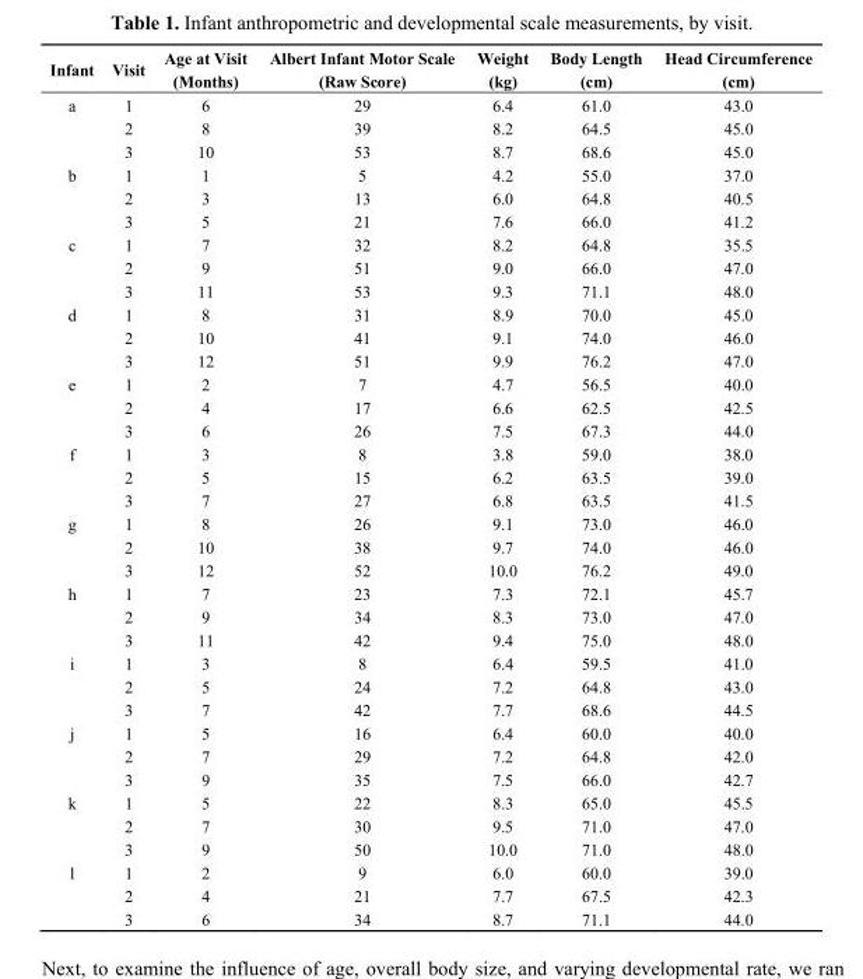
<table><thead><tr><td>Infant</td><td>Visit</td><td>Age at Visit (Months)</td><td>Albert Infant Motor Scale (Raw Score)</td><td>Weight (kg)</td><td>Body Length (cm)</td><td>Head Circumference (cm)</td></tr></thead><tbody><tr><td rowspan="3">a</td><td>1</td><td>6</td><td>29</td><td>6.4</td><td>61.0</td><td>43.0</td></tr><tr><td>2</td><td>8</td><td>39</td><td>8.2</td><td>64.5</td><td>45.0</td></tr><tr><td>3</td><td>10</td><td>53</td><td>8.7</td><td>68.6</td><td>45.0</td></tr><tr><td rowspan="3">b</td><td>1</td><td>1</td><td>5</td><td>4.2</td><td>55.0</td><td>37.0</td></tr><tr><td>2</td><td>3</td><td>13</td><td>6.0</td><td>64.8</td><td>40.5</td></tr><tr><td>3</td><td>5</td><td>21</td><td>7.6</td><td>66.0</td><td>41.2</td></tr><tr><td rowspan="3">c</td><td>1</td><td>7</td><td>32</td><td>8.2</td><td>64.8</td><td>35.5</td></tr><tr><td>2</td><td>9</td><td>51</td><td>9.0</td><td>66.0</td><td>47.0</td></tr><tr><td>3</td><td>11</td><td>53</td><td>9.3</td><td>71.1</td><td>48.0</td></tr><tr><td rowspan="3">d</td><td>1</td><td>8</td><td>31</td><td>8.9</td><td>70.0</td><td>45.0</td></tr><tr><td>2</td><td>10</td><td>41</td><td>9.1</td><td>74.0</td><td>46.0</td></tr><tr><td>3</td><td>12</td><td>51</td><td>9.9</td><td>76.2</td><td>47.0</td></tr><tr><td rowspan="3">e</td><td>1</td><td>2</td><td>7</td><td>4.7</td><td>56.5</td><td>40.0</td></tr><tr><td>2</td><td>4</td><td>17</td><td>6.6</td><td>62.5</td><td>42.5</td></tr><tr><td>3</td><td>6</td><td>26</td><td>7.5</td><td>67.3</td><td>44.0</td></tr><tr><td rowspan="3">f</td><td>1</td><td>3</td><td>8</td><td>3.8</td><td>59.0</td><td>38.0</td></tr><tr><td>2</td><td>5</td><td>15</td><td>6.2</td><td>63.5</td><td>39.0</td></tr><tr><td>3</td><td>7</td><td>27</td><td>6.8</td><td>63.5</td><td>41.5</td></tr><tr><td rowspan="3">g</td><td>1</td><td>8</td><td>26</td><td>9.1</td><td>73.0</td><td>46.0</td></tr><tr><td>2</td><td>10</td><td>38</td><td>9.7</td><td>74.0</td><td>46.0</td></tr><tr><td>3</td><td>12</td><td>52</td><td>10.0</td><td>76.2</td><td>49.0</td></tr><tr><td rowspan="3">h</td><td>1</td><td>7</td><td>23</td><td>7.3</td><td>72.1</td><td>45.7</td></tr><tr><td>2</td><td>9</td><td>34</td><td>8.3</td><td>73.0</td><td>47.0</td></tr><tr><td>3</td><td>11</td><td>42</td><td>9.4</td><td>75.0</td><td>48.0</td></tr><tr><td rowspan="3">i</td><td>1</td><td>3</td><td>8</td><td>6.4</td><td>59.5</td><td>41.0</td></tr><tr><td>2</td><td>5</td><td>24</td><td>7.2</td><td>64.8</td><td>43.0</td></tr><tr><td>3</td><td>7</td><td>42</td><td>7.7</td><td>68.6</td><td>44.5</td></tr><tr><td rowspan="3">j</td><td>1</td><td>5</td><td>16</td><td>6.4</td><td>60.0</td><td>40.0</td></tr><tr><td>2</td><td>7</td><td>29</td><td>7.2</td><td>64.8</td><td>42.0</td></tr><tr><td>3</td><td>9</td><td>35</td><td>7.5</td><td>66.0</td><td>42.7</td></tr><tr><td rowspan="3">k</td><td>1</td><td>5</td><td>22</td><td>8.3</td><td>65.0</td><td>45.5</td></tr><tr><td>2</td><td>7</td><td>30</td><td>9.5</td><td>71.0</td><td>47.0</td></tr><tr><td>3</td><td>9</td><td>50</td><td>10.0</td><td>71.0</td><td>48.0</td></tr><tr><td rowspan="3">l</td><td>1</td><td>2</td><td>9</td><td>6.0</td><td>60.0</td><td>39.0</td></tr><tr><td>2</td><td>4</td><td>21</td><td>7.7</td><td>67.5</td><td>42.3</td></tr><tr><td>3</td><td>6</td><td>34</td><td>8.7</td><td>71.1</td><td>44.0</td></tr></tbody></table>